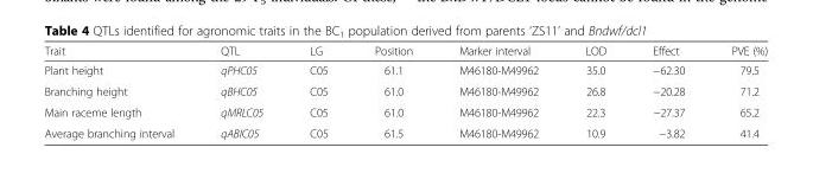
<table><thead><tr><td>Trait</td><td>QTL</td><td>LG</td><td>Position</td><td>Marker interval</td><td>LOD</td><td>Effect</td><td>PVE (%)</td></tr></thead><tbody><tr><td>Plant height</td><td>qPHC05</td><td>C05</td><td>61.1</td><td>M46180-M49962</td><td>35.0</td><td>−62.30</td><td>79.5</td></tr><tr><td>Branching height</td><td>qBHC05</td><td>C05</td><td>61.0</td><td>M46180-M49962</td><td>26.8</td><td>−20.28</td><td>71.2</td></tr><tr><td>Main raceme length</td><td>qMRLC05</td><td>C05</td><td>61.0</td><td>M46180-M49962</td><td>22.3</td><td>−27.37</td><td>65.2</td></tr><tr><td>Average branching interval</td><td>qABIC05</td><td>C05</td><td>61.5</td><td>M46180-M49962</td><td>10.9</td><td>−3.82</td><td>41.4</td></tr></tbody></table>